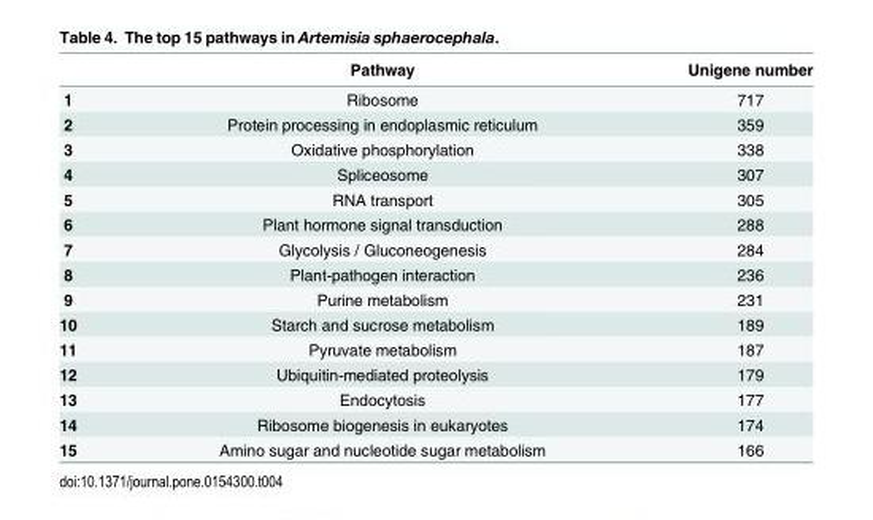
<table><thead><tr><td></td><td>Pathway</td><td>Unigene number</td></tr></thead><tbody><tr><td>1</td><td>Ribosome</td><td>717</td></tr><tr><td>2</td><td>Protein processing in endoplasmic reticulum</td><td>359</td></tr><tr><td>3</td><td>Oxidative phosphorylation</td><td>338</td></tr><tr><td>4</td><td>Spliceosome</td><td>307</td></tr><tr><td>5</td><td>RNA transport</td><td>305</td></tr><tr><td>6</td><td>Plant hormone signal transduction</td><td>288</td></tr><tr><td>7</td><td>Glycolysis / Gluconeogenesis</td><td>284</td></tr><tr><td>8</td><td>Plant-pathogen interaction</td><td>236</td></tr><tr><td>9</td><td>Purine metabolism</td><td>231</td></tr><tr><td>10</td><td>Starch and sucrose metabolism</td><td>189</td></tr><tr><td>11</td><td>Pyruvate metabolism</td><td>187</td></tr><tr><td>12</td><td>Ubiquitin-mediated proteolysis</td><td>179</td></tr><tr><td>13</td><td>Endocytosis</td><td>177</td></tr><tr><td>14</td><td>Ribosome biogenesis in eukaryotes</td><td>174</td></tr><tr><td>15</td><td>Amino sugar and nucleotide sugar metabolism</td><td>166</td></tr></tbody></table>